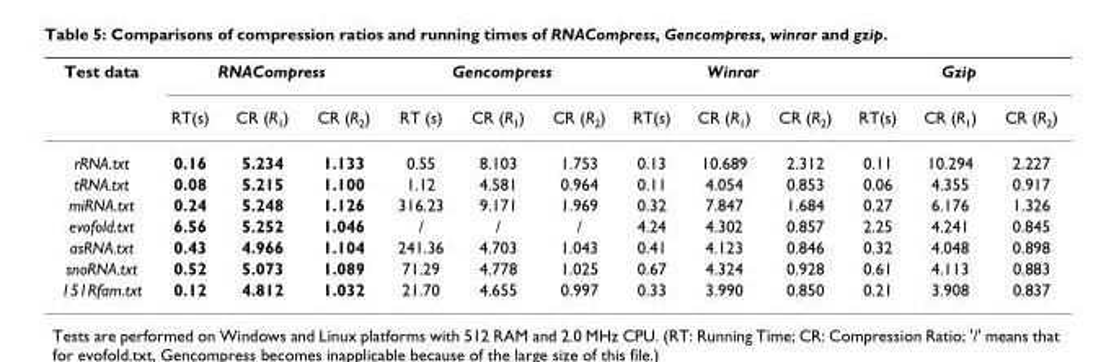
<table><thead><tr><td rowspan="2">Test data</td><td colspan="3">RNACompress</td><td colspan="3">Gencompress</td><td colspan="3">Winrar</td><td colspan="3">Gzip</td></tr><tr><td>RT(s)</td><td>CR (R<sub>1</sub>)</td><td>CR (R<sub>2</sub>)</td><td>RT (s)</td><td>CR (R<sub>1</sub>)</td><td>CR (R<sub>2</sub>)</td><td>RT(s)</td><td>CR (R<sub>1</sub>)</td><td>CR (R<sub>2</sub>)</td><td>RT(s)</td><td>CR (R<sub>1</sub>)</td><td>CR (R<sub>2</sub>)</td></tr></thead><tbody><tr><td>rRNA.txt</td><td>0.16</td><td>5.234</td><td>1.133</td><td>0.55</td><td>8.103</td><td>1.753</td><td>0.13</td><td>10.689</td><td>2.312</td><td>0.11</td><td>10.294</td><td>2.227</td></tr><tr><td>tRNA.txt</td><td>0.08</td><td>5.215</td><td>1.100</td><td>1.12</td><td>4.581</td><td>0.964</td><td>0.11</td><td>4.054</td><td>0.853</td><td>0.06</td><td>4.355</td><td>0.917</td></tr><tr><td>miRNA.txt</td><td>0.24</td><td>5.248</td><td>1.126</td><td>316.23</td><td>9.171</td><td>1.969</td><td>0.32</td><td>7.847</td><td>1.684</td><td>0.27</td><td>6.176</td><td>1.326</td></tr><tr><td>evofold.txt</td><td>6.56</td><td>5.252</td><td>1.046</td><td>/</td><td>/</td><td>/</td><td>4.24</td><td>4.302</td><td>0.857</td><td>2.25</td><td>4.241</td><td>0.845</td></tr><tr><td>asRNA.txt</td><td>0.43</td><td>4.966</td><td>1.104</td><td>241.36</td><td>4.703</td><td>1.043</td><td>0.41</td><td>4.123</td><td>0.846</td><td>0.32</td><td>4.048</td><td>0.898</td></tr><tr><td>snoRNA.txt</td><td>0.52</td><td>5.073</td><td>1.089</td><td>71.29</td><td>4.778</td><td>1.025</td><td>0.67</td><td>4.324</td><td>0.928</td><td>0.61</td><td>4.113</td><td>0.883</td></tr><tr><td>151Rfam.txt</td><td>0.12</td><td>4.812</td><td>1.032</td><td>21.70</td><td>4.655</td><td>0.997</td><td>0.33</td><td>3.990</td><td>0.850</td><td>0.21</td><td>3.908</td><td>0.837</td></tr></tbody></table>